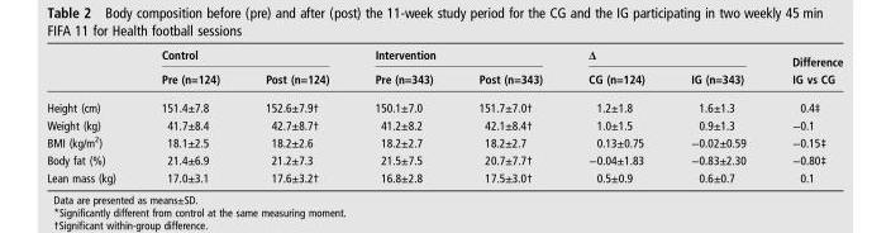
<table><thead><tr><td rowspan="2"></td><td colspan="2">Control</td><td colspan="2">Intervention</td><td colspan="2">Δ</td><td rowspan="2">Difference IG vs CG</td></tr><tr><td>Pre (n=124)</td><td>Post (n=124)</td><td>Pre (n=343)</td><td>Post (n=343)</td><td>CG (n=124)</td><td>IG (n=343)</td></tr></thead><tbody><tr><td>Height (cm)</td><td>151.4±7.8</td><td>152.6±7.9†</td><td>150.1±7.0</td><td>151.7±7.0†</td><td>1.2±1.8</td><td>1.6±1.3</td><td>0.4‡</td></tr><tr><td>Weight (kg)</td><td>41.7±8.4</td><td>42.7±8.7†</td><td>41.2±8.2</td><td>42.1±8.4†</td><td>1.0±1.5</td><td>0.9±1.3</td><td>−0.1</td></tr><tr><td>BMI (kg/m<sup>2</sup>)</td><td>18.1±2.5</td><td>18.2±2.6</td><td>18.2±2.7</td><td>18.2±2.7</td><td>0.13±0.75</td><td>−0.02±0.59</td><td>−0.15‡</td></tr><tr><td>Body fat (%)</td><td>21.4±6.9</td><td>21.2±7.3</td><td>21.5±7.5</td><td>20.7±7.7†</td><td>−0.04±1.83</td><td>−0.83±2.30</td><td>−0.80‡</td></tr><tr><td>Lean mass (kg)</td><td>17.0±3.1</td><td>17.6±3.2†</td><td>16.8±2.8</td><td>17.5±3.0†</td><td>0.5±0.9</td><td>0.6±0.7</td><td>0.1</td></tr></tbody></table>